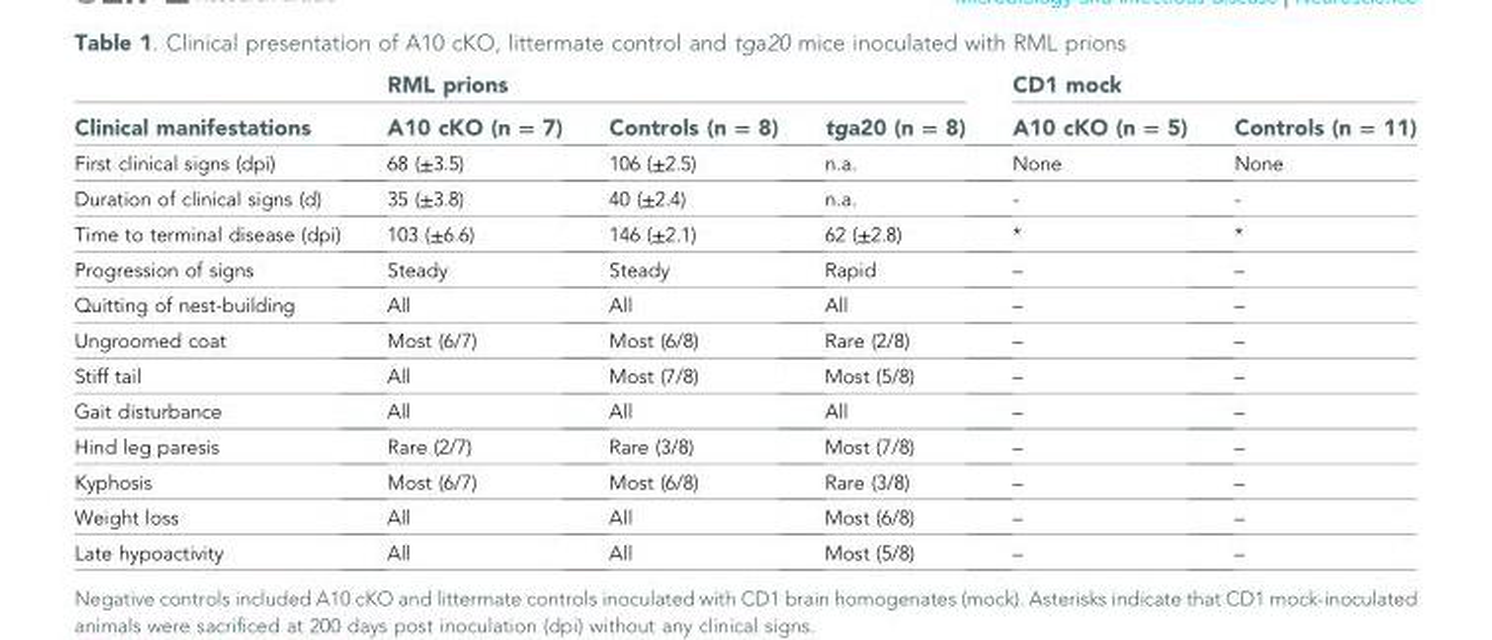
<table><thead><tr><td rowspan="2">Clinical manifestations</td><td colspan="3">RML prions</td><td colspan="2">CD1 mock</td></tr><tr><td>A10 cKO (n = 7)</td><td>Controls (n = 8)</td><td>tga20 (n = 8)</td><td>A10 cKO (n = 5)</td><td>Controls (n = 11)</td></tr></thead><tbody><tr><td>First clinical signs (dpi)</td><td>68 (±3.5)</td><td>106 (±2.5)</td><td>n.a.</td><td>None</td><td>None</td></tr><tr><td>Duration of clinical signs (d)</td><td>35 (±3.8)</td><td>40 (±2.4)</td><td>n.a.</td><td>-</td><td>-</td></tr><tr><td>Time to terminal disease (dpi)</td><td>103 (±6.6)</td><td>146 (±2.1)</td><td>62 (±2.8)</td><td>*</td><td>*</td></tr><tr><td>Progression of signs</td><td>Steady</td><td>Steady</td><td>Rapid</td><td>–</td><td>–</td></tr><tr><td>Quitting of nest-building</td><td>All</td><td>All</td><td>All</td><td>–</td><td>–</td></tr><tr><td>Ungroomed coat</td><td>Most (6/7)</td><td>Most (6/8)</td><td>Rare (2/8)</td><td>–</td><td>–</td></tr><tr><td>Stiff tail</td><td>All</td><td>Most (7/8)</td><td>Most (5/8)</td><td>–</td><td>–</td></tr><tr><td>Gait disturbance</td><td>All</td><td>All</td><td>All</td><td>–</td><td>–</td></tr><tr><td>Hind leg paresis</td><td>Rare (2/7)</td><td>Rare (3/8)</td><td>Most (7/8)</td><td>–</td><td>–</td></tr><tr><td>Kyphosis</td><td>Most (6/7)</td><td>Most (6/8)</td><td>Rare (3/8)</td><td>–</td><td>–</td></tr><tr><td>Weight loss</td><td>All</td><td>All</td><td>Most (6/8)</td><td>–</td><td>–</td></tr><tr><td>Late hypoactivity</td><td>All</td><td>All</td><td>Most (5/8)</td><td>–</td><td>–</td></tr></tbody></table>